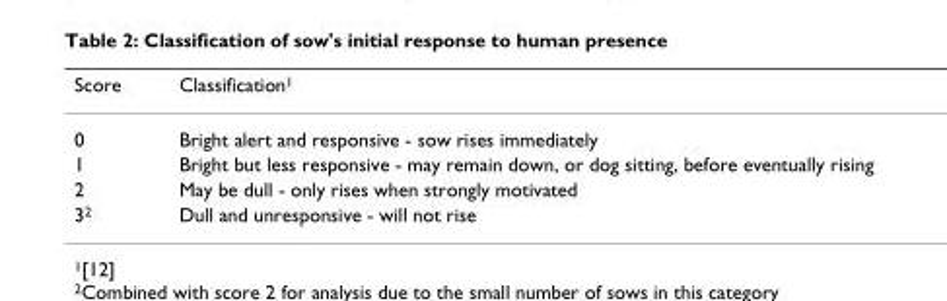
<table><thead><tr><td>Score</td><td>Classification<sup>1</sup></td></tr></thead><tbody><tr><td>0</td><td>Bright alert and responsive - sow rises immediately</td></tr><tr><td>1</td><td>Bright but less responsive - may remain down, or dog sitting, before eventually rising</td></tr><tr><td>2</td><td>May be dull - only rises when strongly motivated</td></tr><tr><td>3<sup>2</sup></td><td>Dull and unresponsive - will not rise</td></tr></tbody></table>